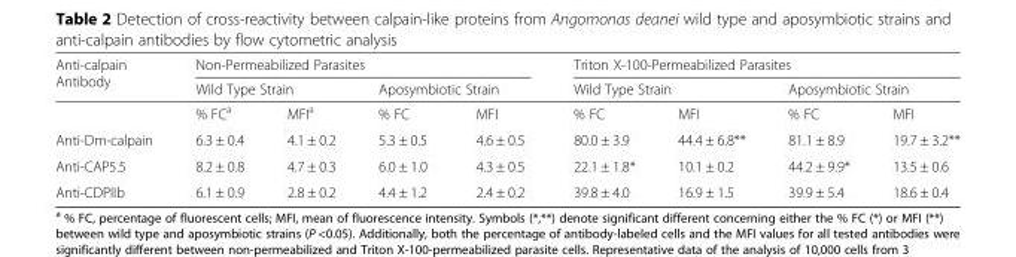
<table><thead><tr><td rowspan="3">Anti-calpain Antibody</td><td colspan="4">Non-Permeabilized Parasites</td><td colspan="4">Triton X-100-Permeabilized Parasites</td></tr><tr><td colspan="2">Wild Type Strain</td><td colspan="2">Aposymbiotic Strain</td><td colspan="2">Wild Type Strain</td><td colspan="2">Aposymbiotic Strain</td></tr><tr><td>% FC<sup>a</sup></td><td>MFI<sup>a</sup></td><td>% FC</td><td>MFI</td><td>% FC</td><td>MFI</td><td>% FC</td><td>MFI</td></tr></thead><tbody><tr><td>Anti-Dm-calpain</td><td>6.3 ± 0.4</td><td>4.1 ± 0.2</td><td>5.3 ± 0.5</td><td>4.6 ± 0.5</td><td>80.0 ± 3.9</td><td>44.4 ± 6.8**</td><td>81.1 ± 8.9</td><td>19.7 ± 3.2**</td></tr><tr><td>Anti-CAP5.5</td><td>8.2 ± 0.8</td><td>4.7 ± 0.3</td><td>6.0 ± 1.0</td><td>4.3 ± 0.5</td><td>22.1 ± 1.8*</td><td>10.1 ± 0.2</td><td>44.2 ± 9.9*</td><td>13.5 ± 0.6</td></tr><tr><td>Anti-CDPIIb</td><td>6.1 ± 0.9</td><td>2.8 ± 0.2</td><td>4.4 ± 1.2</td><td>2.4 ± 0.2</td><td>39.8 ± 4.0</td><td>16.9 ± 1.5</td><td>39.9 ± 5.4</td><td>18.6 ± 0.4</td></tr></tbody></table>